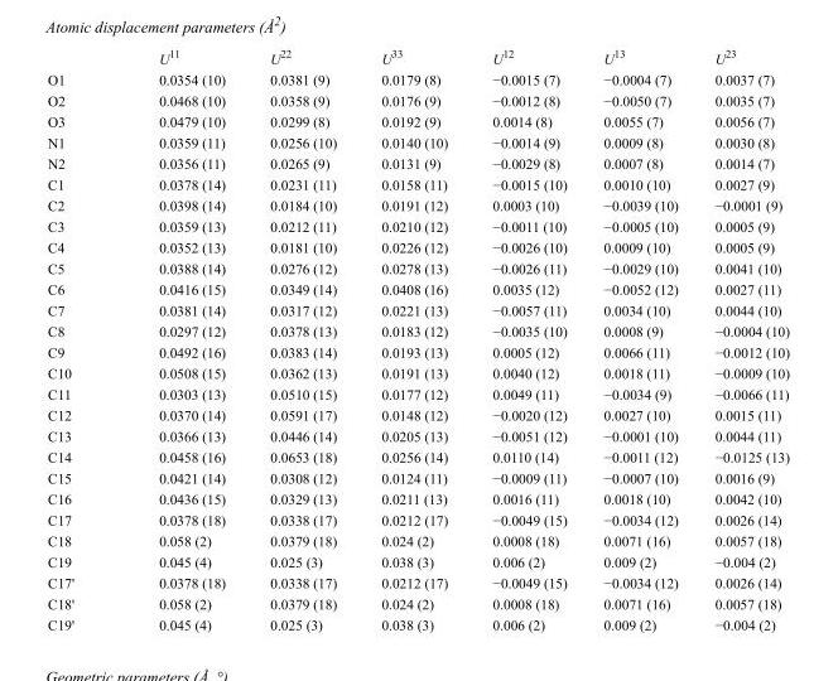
<table><thead><tr><td></td><td>U<sup>11</sup></td><td>U<sup>22</sup></td><td>U<sup>33</sup></td><td>U<sup>12</sup></td><td>U<sup>13</sup></td><td>U<sup>23</sup></td></tr></thead><tbody><tr><td>O1</td><td>0.0354 (10)</td><td>0.0381 (9)</td><td>0.0179 (8)</td><td>−0.0015 (7)</td><td>−0.0004 (7)</td><td>0.0037 (7)</td></tr><tr><td>O2</td><td>0.0468 (10)</td><td>0.0358 (9)</td><td>0.0176 (9)</td><td>−0.0012 (8)</td><td>−0.0050 (7)</td><td>0.0035 (7)</td></tr><tr><td>O3</td><td>0.0479 (10)</td><td>0.0299 (8)</td><td>0.0192 (9)</td><td>0.0014 (8)</td><td>0.0055 (7)</td><td>0.0056 (7)</td></tr><tr><td>N1</td><td>0.0359 (11)</td><td>0.0256 (10)</td><td>0.0140 (10)</td><td>−0.0014 (9)</td><td>0.0009 (8)</td><td>0.0030 (8)</td></tr><tr><td>N2</td><td>0.0356 (11)</td><td>0.0265 (9)</td><td>0.0131 (9)</td><td>−0.0029 (8)</td><td>0.0007 (8)</td><td>0.0014 (7)</td></tr><tr><td>C1</td><td>0.0378 (14)</td><td>0.0231 (11)</td><td>0.0158 (11)</td><td>−0.0015 (10)</td><td>0.0010 (10)</td><td>0.0027 (9)</td></tr><tr><td>C2</td><td>0.0398 (14)</td><td>0.0184 (10)</td><td>0.0191 (12)</td><td>0.0003 (10)</td><td>−0.0039 (10)</td><td>−0.0001 (9)</td></tr><tr><td>C3</td><td>0.0359 (13)</td><td>0.0212 (11)</td><td>0.0210 (12)</td><td>−0.0011 (10)</td><td>−0.0005 (10)</td><td>0.0005 (9)</td></tr><tr><td>C4</td><td>0.0352 (13)</td><td>0.0181 (10)</td><td>0.0226 (12)</td><td>−0.0026 (10)</td><td>0.0009 (10)</td><td>0.0005 (9)</td></tr><tr><td>C5</td><td>0.0388 (14)</td><td>0.0276 (12)</td><td>0.0278 (13)</td><td>−0.0026 (11)</td><td>−0.0029 (10)</td><td>0.0041 (10)</td></tr><tr><td>C6</td><td>0.0416 (15)</td><td>0.0349 (14)</td><td>0.0408 (16)</td><td>0.0035 (12)</td><td>−0.0052 (12)</td><td>0.0027 (11)</td></tr><tr><td>C7</td><td>0.0381 (14)</td><td>0.0317 (12)</td><td>0.0221 (13)</td><td>−0.0057 (11)</td><td>0.0034 (10)</td><td>0.0044 (10)</td></tr><tr><td>C8</td><td>0.0297 (12)</td><td>0.0378 (13)</td><td>0.0183 (12)</td><td>−0.0035 (10)</td><td>0.0008 (9)</td><td>−0.0004 (10)</td></tr><tr><td>C9</td><td>0.0492 (16)</td><td>0.0383 (14)</td><td>0.0193 (13)</td><td>0.0005 (12)</td><td>0.0066 (11)</td><td>−0.0012 (10)</td></tr><tr><td>C10</td><td>0.0508 (15)</td><td>0.0362 (13)</td><td>0.0191 (13)</td><td>0.0040 (12)</td><td>0.0018 (11)</td><td>−0.0009 (10)</td></tr><tr><td>C11</td><td>0.0303 (13)</td><td>0.0510 (15)</td><td>0.0177 (12)</td><td>0.0049 (11)</td><td>−0.0034 (9)</td><td>−0.0066 (11)</td></tr><tr><td>C12</td><td>0.0370 (14)</td><td>0.0591 (17)</td><td>0.0148 (12)</td><td>−0.0020 (12)</td><td>0.0027 (10)</td><td>0.0015 (11)</td></tr><tr><td>C13</td><td>0.0366 (13)</td><td>0.0446 (14)</td><td>0.0205 (13)</td><td>−0.0051 (12)</td><td>−0.0001 (10)</td><td>0.0044 (11)</td></tr><tr><td>C14</td><td>0.0458 (16)</td><td>0.0653 (18)</td><td>0.0256 (14)</td><td>0.0110 (14)</td><td>−0.0011 (12)</td><td>−0.0125 (13)</td></tr><tr><td>C15</td><td>0.0421 (14)</td><td>0.0308 (12)</td><td>0.0124 (11)</td><td>−0.0009 (11)</td><td>−0.0007 (10)</td><td>0.0016 (9)</td></tr><tr><td>C16</td><td>0.0436 (15)</td><td>0.0329 (13)</td><td>0.0211 (13)</td><td>0.0016 (11)</td><td>0.0018 (10)</td><td>0.0042 (10)</td></tr><tr><td>C17</td><td>0.0378 (18)</td><td>0.0338 (17)</td><td>0.0212 (17)</td><td>−0.0049 (15)</td><td>−0.0034 (12)</td><td>0.0026 (14)</td></tr><tr><td>C18</td><td>0.058 (2)</td><td>0.0379 (18)</td><td>0.024 (2)</td><td>0.0008 (18)</td><td>0.0071 (16)</td><td>0.0057 (18)</td></tr><tr><td>C19</td><td>0.045 (4)</td><td>0.025 (3)</td><td>0.038 (3)</td><td>0.006 (2)</td><td>0.009 (2)</td><td>−0.004 (2)</td></tr><tr><td>C17&#x27;</td><td>0.0378 (18)</td><td>0.0338 (17)</td><td>0.0212 (17)</td><td>−0.0049 (15)</td><td>−0.0034 (12)</td><td>0.0026 (14)</td></tr><tr><td>C18&#x27;</td><td>0.058 (2)</td><td>0.0379 (18)</td><td>0.024 (2)</td><td>0.0008 (18)</td><td>0.0071 (16)</td><td>0.0057 (18)</td></tr><tr><td>C19&#x27;</td><td>0.045 (4)</td><td>0.025 (3)</td><td>0.038 (3)</td><td>0.006 (2)</td><td>0.009 (2)</td><td>−0.004 (2)</td></tr></tbody></table>